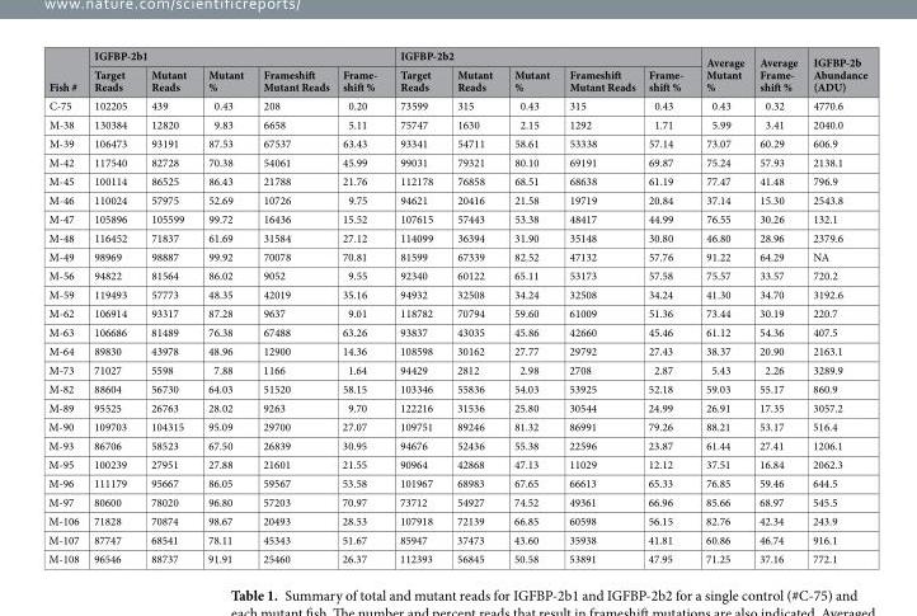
<table><thead><tr><td rowspan="2">Fish #</td><td colspan="5">IGFBP-2b1</td><td colspan="5">IGFBP-2b2</td><td rowspan="2">Average Mutant %</td><td rowspan="2">Average Frame- shift %</td><td rowspan="2">IGFBP-2b Abundance (ADU)</td></tr><tr><td>Target Reads</td><td>Mutant Reads</td><td>Mutant %</td><td>Frameshift Mutant Reads</td><td>Frame- shift %</td><td>Target Reads</td><td>Mutant Reads</td><td>Mutant %</td><td>Frameshift Mutant Reads</td><td>Frame- shift %</td></tr></thead><tbody><tr><td>C-75</td><td>102205</td><td>439</td><td>0.43</td><td>208</td><td>0.20</td><td>73599</td><td>315</td><td>0.43</td><td>315</td><td>0.43</td><td>0.43</td><td>0.32</td><td>4770.6</td></tr><tr><td>M-38</td><td>130384</td><td>12820</td><td>9.83</td><td>6658</td><td>5.11</td><td>75747</td><td>1630</td><td>2.15</td><td>1292</td><td>1.71</td><td>5.99</td><td>3.41</td><td>2040.0</td></tr><tr><td>M-39</td><td>106473</td><td>93191</td><td>87.53</td><td>67537</td><td>63.43</td><td>93341</td><td>54711</td><td>58.61</td><td>53338</td><td>57.14</td><td>73.07</td><td>60.29</td><td>606.9</td></tr><tr><td>M-42</td><td>117540</td><td>82728</td><td>70.38</td><td>54061</td><td>45.99</td><td>99031</td><td>79321</td><td>80.10</td><td>69191</td><td>69.87</td><td>75.24</td><td>57.93</td><td>2138.1</td></tr><tr><td>M-45</td><td>100114</td><td>86525</td><td>86.43</td><td>21788</td><td>21.76</td><td>112178</td><td>76858</td><td>68.51</td><td>68638</td><td>61.19</td><td>77.47</td><td>41.48</td><td>796.9</td></tr><tr><td>M-46</td><td>110024</td><td>57975</td><td>52.69</td><td>10726</td><td>9.75</td><td>94621</td><td>20416</td><td>21.58</td><td>19719</td><td>20.84</td><td>37.14</td><td>15.30</td><td>2543.8</td></tr><tr><td>M-47</td><td>105896</td><td>105599</td><td>99.72</td><td>16436</td><td>15.52</td><td>107615</td><td>57443</td><td>53.38</td><td>48417</td><td>44.99</td><td>76.55</td><td>30.26</td><td>132.1</td></tr><tr><td>M-48</td><td>116452</td><td>71837</td><td>61.69</td><td>31584</td><td>27.12</td><td>114099</td><td>36394</td><td>31.90</td><td>35148</td><td>30.80</td><td>46.80</td><td>28.96</td><td>2379.6</td></tr><tr><td>M-49</td><td>98969</td><td>98887</td><td>99.92</td><td>70078</td><td>70.81</td><td>81599</td><td>67339</td><td>82.52</td><td>47132</td><td>57.76</td><td>91.22</td><td>64.29</td><td>NA</td></tr><tr><td>M-56</td><td>94822</td><td>81564</td><td>86.02</td><td>9052</td><td>9.55</td><td>92340</td><td>60122</td><td>65.11</td><td>53173</td><td>57.58</td><td>75.57</td><td>33.57</td><td>720.2</td></tr><tr><td>M-59</td><td>119493</td><td>57773</td><td>48.35</td><td>42019</td><td>35.16</td><td>94932</td><td>32508</td><td>34.24</td><td>32508</td><td>34.24</td><td>41.30</td><td>34.70</td><td>3192.6</td></tr><tr><td>M-62</td><td>106914</td><td>93317</td><td>87.28</td><td>9637</td><td>9.01</td><td>118782</td><td>70794</td><td>59.60</td><td>61009</td><td>51.36</td><td>73.44</td><td>30.19</td><td>220.7</td></tr><tr><td>M-63</td><td>106686</td><td>81489</td><td>76.38</td><td>67488</td><td>63.26</td><td>93837</td><td>43035</td><td>45.86</td><td>42660</td><td>45.46</td><td>61.12</td><td>54.36</td><td>407.5</td></tr><tr><td>M-64</td><td>89830</td><td>43978</td><td>48.96</td><td>12900</td><td>14.36</td><td>108598</td><td>30162</td><td>27.77</td><td>29792</td><td>27.43</td><td>38.37</td><td>20.90</td><td>2163.1</td></tr><tr><td>M-73</td><td>71027</td><td>5598</td><td>7.88</td><td>1166</td><td>1.64</td><td>94429</td><td>2812</td><td>2.98</td><td>2708</td><td>2.87</td><td>5.43</td><td>2.26</td><td>3289.9</td></tr><tr><td>M-82</td><td>88604</td><td>56730</td><td>64.03</td><td>51520</td><td>58.15</td><td>103346</td><td>55836</td><td>54.03</td><td>53925</td><td>52.18</td><td>59.03</td><td>55.17</td><td>860.9</td></tr><tr><td>M-89</td><td>95525</td><td>26763</td><td>28.02</td><td>9263</td><td>9.70</td><td>122216</td><td>31536</td><td>25.80</td><td>30544</td><td>24.99</td><td>26.91</td><td>17.35</td><td>3057.2</td></tr><tr><td>M-90</td><td>109703</td><td>104315</td><td>95.09</td><td>29700</td><td>27.07</td><td>109751</td><td>89246</td><td>81.32</td><td>86991</td><td>79.26</td><td>88.21</td><td>53.17</td><td>516.4</td></tr><tr><td>M-93</td><td>86706</td><td>58523</td><td>67.50</td><td>26839</td><td>30.95</td><td>94676</td><td>52436</td><td>55.38</td><td>22596</td><td>23.87</td><td>61.44</td><td>27.41</td><td>1206.1</td></tr><tr><td>M-95</td><td>100239</td><td>27951</td><td>27.88</td><td>21601</td><td>21.55</td><td>90964</td><td>42868</td><td>47.13</td><td>11029</td><td>12.12</td><td>37.51</td><td>16.84</td><td>2062.3</td></tr><tr><td>M-96</td><td>111179</td><td>95667</td><td>86.05</td><td>59567</td><td>53.58</td><td>101967</td><td>68983</td><td>67.65</td><td>66613</td><td>65.33</td><td>76.85</td><td>59.46</td><td>644.5</td></tr><tr><td>M-97</td><td>80600</td><td>78020</td><td>96.80</td><td>57203</td><td>70.97</td><td>73712</td><td>54927</td><td>74.52</td><td>49361</td><td>66.96</td><td>85.66</td><td>68.97</td><td>545.5</td></tr><tr><td>M-106</td><td>71828</td><td>70874</td><td>98.67</td><td>20493</td><td>28.53</td><td>107918</td><td>72139</td><td>66.85</td><td>60598</td><td>56.15</td><td>82.76</td><td>42.34</td><td>243.9</td></tr><tr><td>M-107</td><td>87747</td><td>68541</td><td>78.11</td><td>45343</td><td>51.67</td><td>85947</td><td>37473</td><td>43.60</td><td>35938</td><td>41.81</td><td>60.86</td><td>46.74</td><td>916.1</td></tr><tr><td>M-108</td><td>96546</td><td>88737</td><td>91.91</td><td>25460</td><td>26.37</td><td>112393</td><td>56845</td><td>50.58</td><td>53891</td><td>47.95</td><td>71.25</td><td>37.16</td><td>772.1</td></tr></tbody></table>